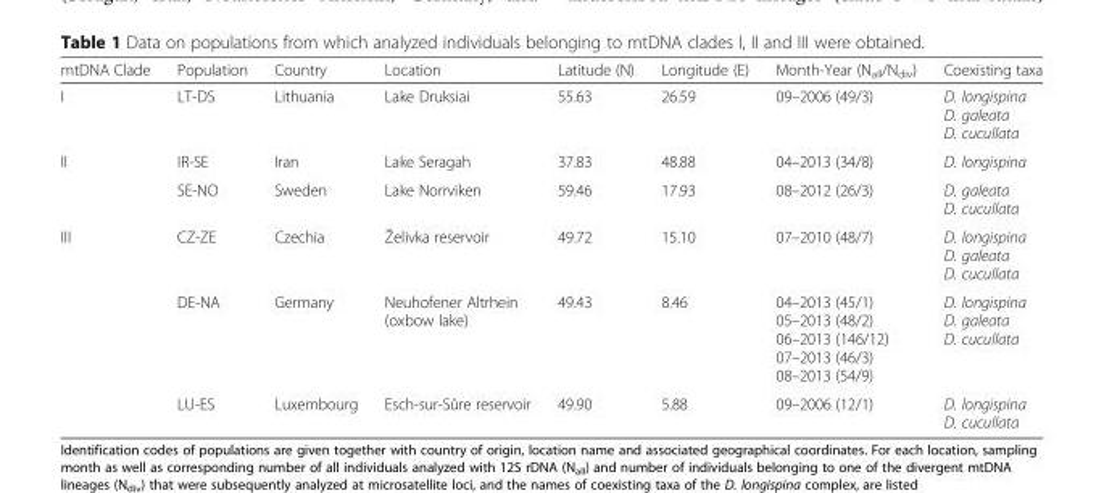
<table><thead><tr><td>mtDNA Clade</td><td>Population</td><td>Country</td><td>Location</td><td>Latitude (N)</td><td>Longitude (E)</td><td>Month-Year (N<sub>all</sub>/N<sub>div</sub>)</td><td>Coexisting taxa</td></tr></thead><tbody><tr><td>I</td><td>LT-DS</td><td>Lithuania</td><td>Lake Druksiai</td><td>55.63</td><td>26.59</td><td>09–2006 (49/3)</td><td>D. longispina D. galeata D. cucullata</td></tr><tr><td rowspan="2">II</td><td>IR-SE</td><td>Iran</td><td>Lake Seragah</td><td>37.83</td><td>48.88</td><td>04–2013 (34/8)</td><td>D. longispina</td></tr><tr><td>SE-NO</td><td>Sweden</td><td>Lake Norrviken</td><td>59.46</td><td>17.93</td><td>08–2012 (26/3)</td><td>D. galeata D. cucullata</td></tr><tr><td rowspan="3">III</td><td>CZ-ZE</td><td>Czechia</td><td>Želivka reservoir</td><td>49.72</td><td>15.10</td><td>07–2010 (48/7)</td><td>D. longispina D. galeata D. cucullata</td></tr><tr><td>DE-NA</td><td>Germany</td><td>Neuhofener Altrhein (oxbow lake)</td><td>49.43</td><td>8.46</td><td>04–2013 (45/1) 05–2013 (48/2) 06–2013 (146/12) 07–2013 (46/3) 08–2013 (54/9)</td><td>D. longispina D. galeata D. cucullata</td></tr><tr><td>LU-ES</td><td>Luxembourg</td><td>Esch-sur-Sûre reservoir</td><td>49.90</td><td>5.88</td><td>09–2006 (12/1)</td><td>D. longispina D. cucullata</td></tr></tbody></table>